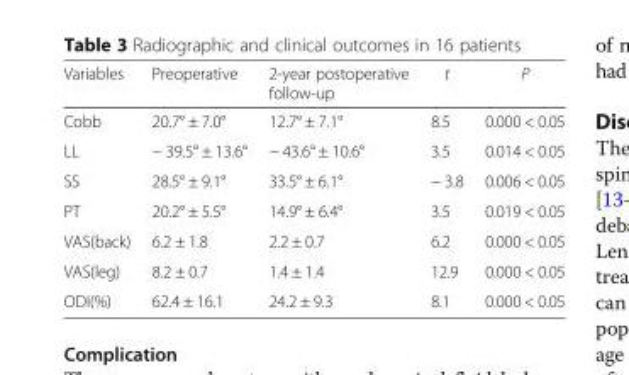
<table><thead><tr><td>Variables</td><td>Preoperative</td><td>2-year postoperative follow-up</td><td>t</td><td>P</td></tr></thead><tbody><tr><td>Cobb</td><td>20.7° ± 7.0°</td><td>12.7° ± 7.1°</td><td>8.5</td><td>0.000 &lt; 0.05</td></tr><tr><td>LL</td><td>− 39.5° ± 13.6°</td><td>− 43.6° ± 10.6°</td><td>3.5</td><td>0.014 &lt; 0.05</td></tr><tr><td>SS</td><td>28.5° ± 9.1°</td><td>33.5° ± 6.1°</td><td>− 3.8</td><td>0.006 &lt; 0.05</td></tr><tr><td>PT</td><td>20.2° ± 5.5°</td><td>14.9° ± 6.4°</td><td>3.5</td><td>0.019 &lt; 0.05</td></tr><tr><td>VAS(back)</td><td>6.2 ± 1.8</td><td>2.2 ± 0.7</td><td>6.2</td><td>0.000 &lt; 0.05</td></tr><tr><td>VAS(leg)</td><td>8.2 ± 0.7</td><td>1.4 ± 1.4</td><td>12.9</td><td>0.000 &lt; 0.05</td></tr><tr><td>ODI(%)</td><td>62.4 ± 16.1</td><td>24.2 ± 9.3</td><td>8.1</td><td>0.000 &lt; 0.05</td></tr></tbody></table>